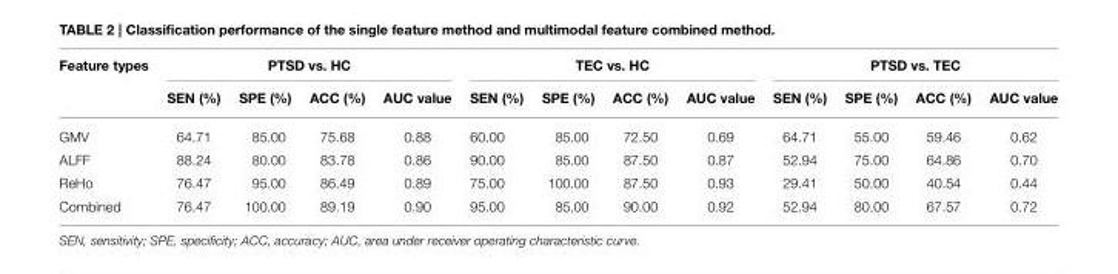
<table><thead><tr><td rowspan="2">Feature types</td><td colspan="4">PTSD vs. HC</td><td colspan="4">TEC vs. HC</td><td colspan="4">PTSD vs. TEC</td></tr><tr><td>SEN (%)</td><td>SPE (%)</td><td>ACC (%)</td><td>AUC value</td><td>SEN (%)</td><td>SPE (%)</td><td>ACC (%)</td><td>AUC value</td><td>SEN (%)</td><td>SPE (%)</td><td>ACC (%)</td><td>AUC value</td></tr></thead><tbody><tr><td>GMV</td><td>64.71</td><td>85.00</td><td>75.68</td><td>0.88</td><td>60.00</td><td>85.00</td><td>72.50</td><td>0.69</td><td>64.71</td><td>55.00</td><td>59.46</td><td>0.62</td></tr><tr><td>ALFF</td><td>88.24</td><td>80.00</td><td>83.78</td><td>0.86</td><td>90.00</td><td>85.00</td><td>87.50</td><td>0.87</td><td>52.94</td><td>75.00</td><td>64.86</td><td>0.70</td></tr><tr><td>ReHo</td><td>76.47</td><td>95.00</td><td>86.49</td><td>0.89</td><td>75.00</td><td>100.00</td><td>87.50</td><td>0.93</td><td>29.41</td><td>50.00</td><td>40.54</td><td>0.44</td></tr><tr><td>Combined</td><td>76.47</td><td>100.00</td><td>89.19</td><td>0.90</td><td>95.00</td><td>85.00</td><td>90.00</td><td>0.92</td><td>52.94</td><td>80.00</td><td>67.57</td><td>0.72</td></tr></tbody></table>